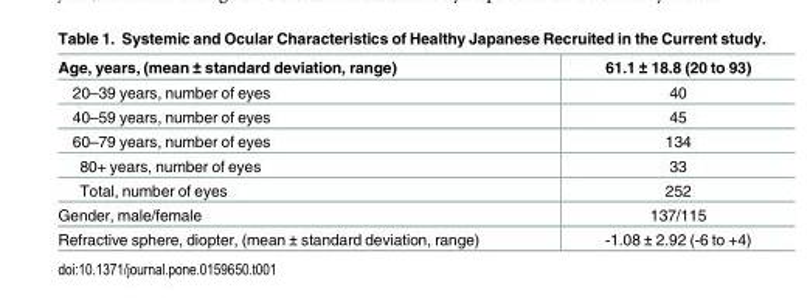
<table><thead><tr><td>Age, years, (mean ± standard deviation, range)</td><td>61.1 ± 18.8 (20 to 93)</td></tr></thead><tbody><tr><td>20–39 years, number of eyes</td><td>40</td></tr><tr><td>40–59 years, number of eyes</td><td>45</td></tr><tr><td>60–79 years, number of eyes</td><td>134</td></tr><tr><td>80+ years, number of eyes</td><td>33</td></tr><tr><td>Total, number of eyes</td><td>252</td></tr><tr><td>Gender, male/female</td><td>137/115</td></tr><tr><td>Refractive sphere, diopter, (mean ± standard deviation, range)</td><td>-1.08 ± 2.92 (-6 to +4)</td></tr></tbody></table>